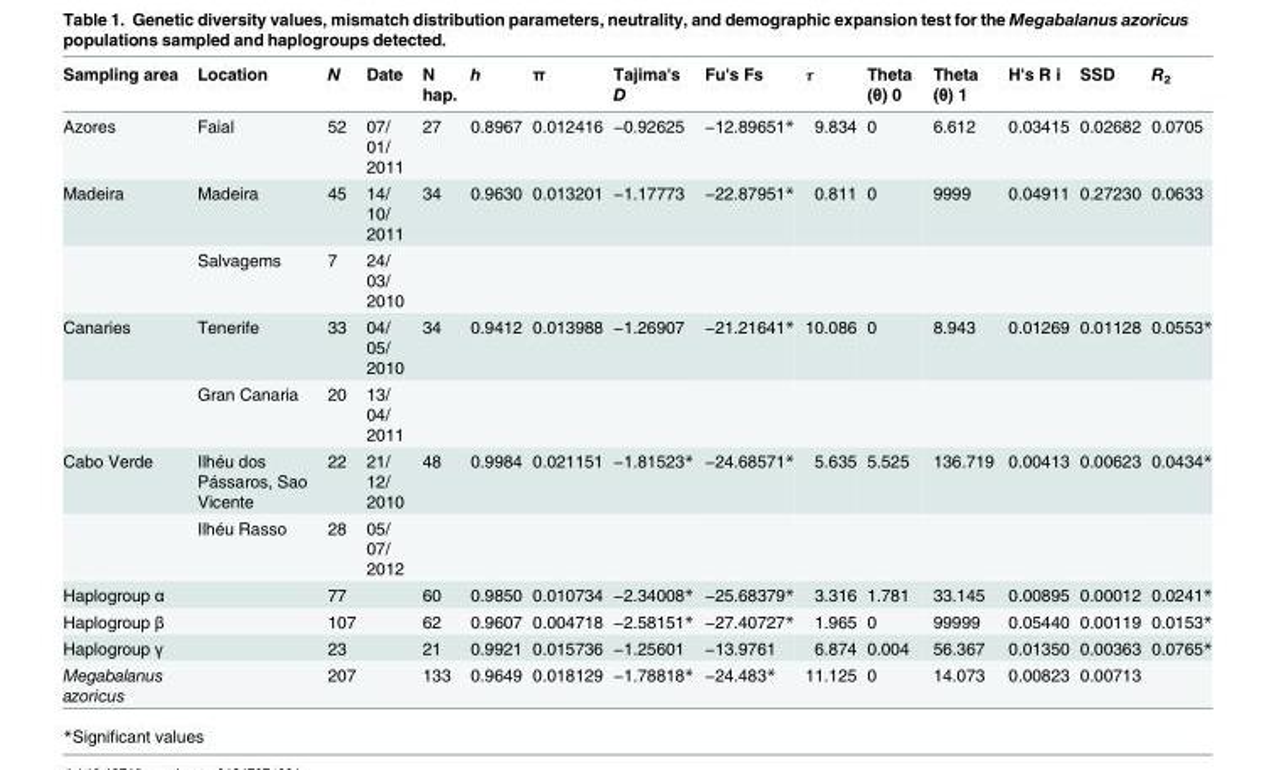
<table><thead><tr><td>Sampling area</td><td>Location</td><td>N</td><td>Date</td><td>N hap.</td><td>h</td><td>π</td><td>Tajima&#x27;s D</td><td>Fu&#x27;s Fs</td><td>τ</td><td>Theta (θ) 0</td><td>Theta (θ) 1</td><td>H&#x27;s R i</td><td>SSD</td><td>R<sub>2</sub></td></tr></thead><tbody><tr><td>Azores</td><td>Faial</td><td>52</td><td>07/ 01/ 2011</td><td>27</td><td>0.8967</td><td>0.012416</td><td>−0.92625</td><td>−12.89651*</td><td>9.834</td><td>0</td><td>6.612</td><td>0.03415</td><td>0.02682</td><td>0.0705</td></tr><tr><td rowspan="2">Madeira</td><td>Madeira</td><td>45</td><td>14/ 10/ 2011</td><td>34</td><td>0.9630</td><td>0.013201</td><td>−1.17773</td><td>−22.87951*</td><td>0.811</td><td>0</td><td>9999</td><td>0.04911</td><td>0.27230</td><td>0.0633</td></tr><tr><td>Salvagems</td><td>7</td><td>24/ 03/ 2010</td><td></td><td></td><td></td><td></td><td></td><td></td><td></td><td></td><td></td><td></td><td></td></tr><tr><td rowspan="2">Canaries</td><td>Tenerife</td><td>33</td><td>04/ 05/ 2010</td><td>34</td><td>0.9412</td><td>0.013988</td><td>−1.26907</td><td>−21.21641*</td><td>10.086</td><td>0</td><td>8.943</td><td>0.01269</td><td>0.01128</td><td>0.0553*</td></tr><tr><td>Gran Canaria</td><td>20</td><td>13/ 04/ 2011</td><td></td><td></td><td></td><td></td><td></td><td></td><td></td><td></td><td></td><td></td><td></td></tr><tr><td rowspan="2">Cabo Verde</td><td>Ilhéu dos Pássaros, Sao Vicente</td><td>22</td><td>21/ 12/ 2010</td><td>48</td><td>0.9984</td><td>0.021151</td><td>−1.81523*</td><td>−24.68571*</td><td>5.635</td><td>5.525</td><td>136.719</td><td>0.00413</td><td>0.00623</td><td>0.0434*</td></tr><tr><td>Ilhéu Rasso</td><td>28</td><td>05/ 07/ 2012</td><td></td><td></td><td></td><td></td><td></td><td></td><td></td><td></td><td></td><td></td><td></td></tr><tr><td>Haplogroup α</td><td></td><td>77</td><td></td><td>60</td><td>0.9850</td><td>0.010734</td><td>−2.34008*</td><td>−25.68379*</td><td>3.316</td><td>1.781</td><td>33.145</td><td>0.00895</td><td>0.00012</td><td>0.0241*</td></tr><tr><td>Haplogroup β</td><td></td><td>107</td><td></td><td>62</td><td>0.9607</td><td>0.004718</td><td>−2.58151*</td><td>−27.40727*</td><td>1.965</td><td>0</td><td>99999</td><td>0.05440</td><td>0.00119</td><td>0.0153*</td></tr><tr><td>Haplogroup γ</td><td></td><td>23</td><td></td><td>21</td><td>0.9921</td><td>0.015736</td><td>−1.25601</td><td>−13.9761</td><td>6.874</td><td>0.004</td><td>56.367</td><td>0.01350</td><td>0.00363</td><td>0.0765*</td></tr><tr><td>Megabalanus azoricus</td><td></td><td>207</td><td></td><td>133</td><td>0.9649</td><td>0.018129</td><td>−1.78818*</td><td>−24.483*</td><td>11.125</td><td>0</td><td>14.073</td><td>0.00823</td><td>0.00713</td><td></td></tr></tbody></table>